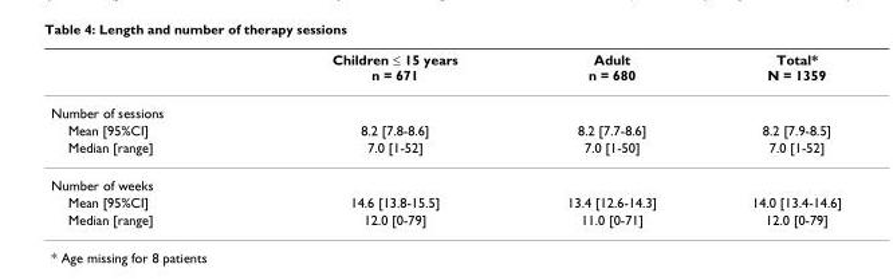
<table><thead><tr><td></td><td>Children ≤ 15 years n = 671</td><td>Adult n = 680</td><td>Total* N = 1359</td></tr></thead><tbody><tr><td colspan="4">Number of sessions</td></tr><tr><td>Mean [95%CI]</td><td>8.2 [7.8-8.6]</td><td>8.2 [7.7-8.6]</td><td>8.2 [7.9-8.5]</td></tr><tr><td>Median [range]</td><td>7.0 [1-52]</td><td>7.0 [1-50]</td><td>7.0 [1-52]</td></tr><tr><td colspan="4">Number of weeks</td></tr><tr><td>Mean [95%CI]</td><td>14.6 [13.8-15.5]</td><td>13.4 [12.6-14.3]</td><td>14.0 [13.4-14.6]</td></tr><tr><td>Median [range]</td><td>12.0 [0-79]</td><td>11.0 [0-71]</td><td>12.0 [0-79]</td></tr></tbody></table>